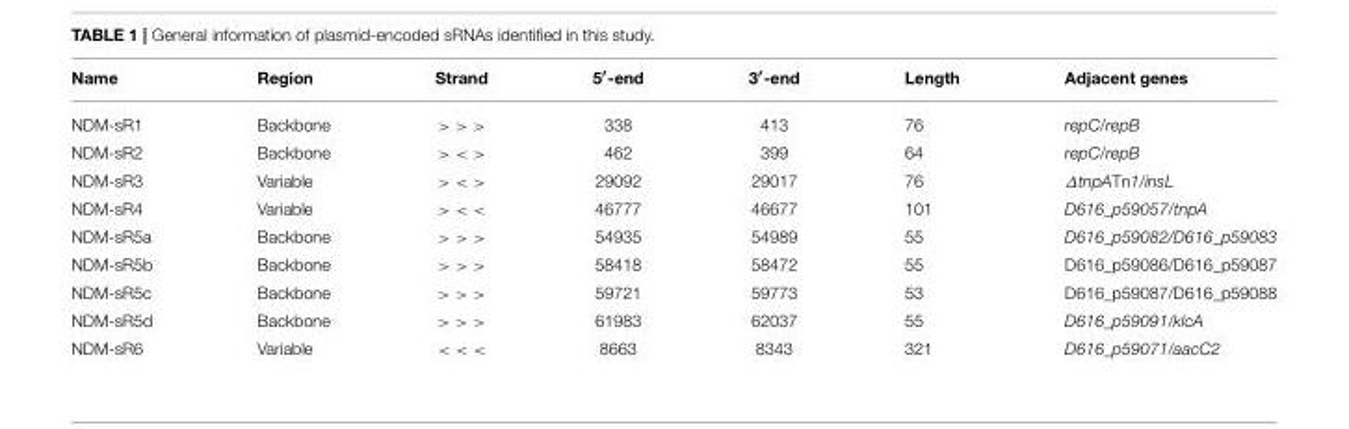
<table><thead><tr><td>Name</td><td>Region</td><td>Strand</td><td>5′-end</td><td>3′-end</td><td>Length</td><td>Adjacent genes</td></tr></thead><tbody><tr><td>NDM-sR1</td><td>Backbone</td><td>&gt; &gt; &gt;</td><td>338</td><td>413</td><td>76</td><td>repC/repB</td></tr><tr><td>NDM-sR2</td><td>Backbone</td><td>&gt; &lt; &gt;</td><td>462</td><td>399</td><td>64</td><td>repC/repB</td></tr><tr><td>NDM-sR3</td><td>Variable</td><td>&gt; &lt; &gt;</td><td>29092</td><td>29017</td><td>76</td><td>∆tnpATn1/insL</td></tr><tr><td>NDM-sR4</td><td>Variable</td><td>&gt; &lt; &lt;</td><td>46777</td><td>46677</td><td>101</td><td>D616_p59057/tnpA</td></tr><tr><td>NDM-sR5a</td><td>Backbone</td><td>&gt; &gt; &gt;</td><td>54935</td><td>54989</td><td>55</td><td>D616_p59082/D616_p59083</td></tr><tr><td>NDM-sR5b</td><td>Backbone</td><td>&gt; &gt; &gt;</td><td>58418</td><td>58472</td><td>55</td><td>D616_p59086/D616_p59087</td></tr><tr><td>NDM-sR5c</td><td>Backbone</td><td>&gt; &gt; &gt;</td><td>59721</td><td>59773</td><td>53</td><td>D616_p59087/D616_p59088</td></tr><tr><td>NDM-sR5d</td><td>Backbone</td><td>&gt; &gt; &gt;</td><td>61983</td><td>62037</td><td>55</td><td>D616_p59091/klcA</td></tr><tr><td>NDM-sR6</td><td>Variable</td><td>&lt; &lt; &lt;</td><td>8663</td><td>8343</td><td>321</td><td>D616_p59071/aacC2</td></tr></tbody></table>